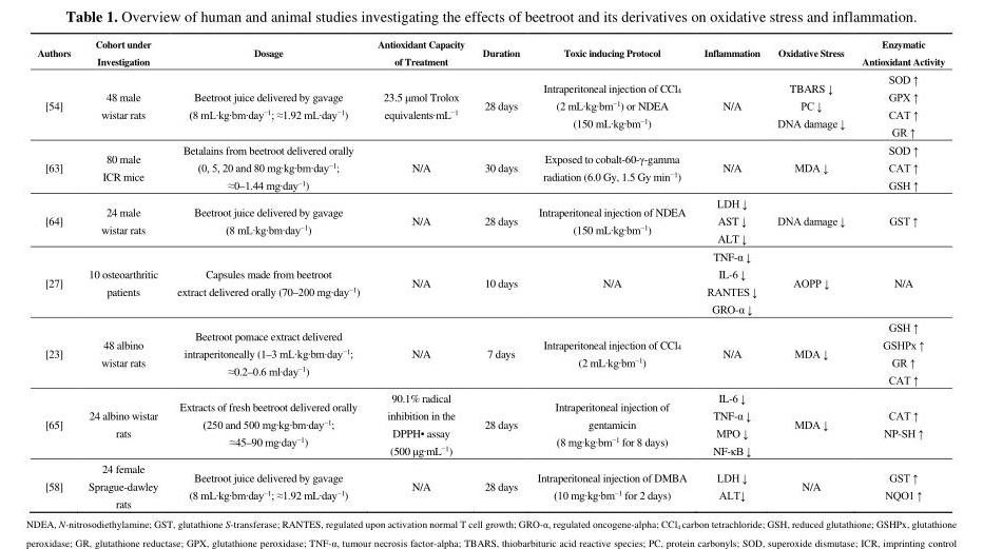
<table><thead><tr><td>Authors</td><td>Cohort under Investigation</td><td>Dosage</td><td>Antioxidant Capacity of Treatment</td><td>Duration</td><td>Toxic inducing Protocol</td><td>Inflammation</td><td>Oxidative Stress</td><td>Enzymatic Antioxidant Activity</td></tr></thead><tbody><tr><td>[54]</td><td>48 male wistar rats</td><td>Beetroot juice delivered by gavage (8 mL∙kg∙bm∙day<sup>−1</sup>; ≈1.92 mL∙day<sup>−1</sup>)</td><td>23.5 μmol Trolox equivalents∙mL<sup>−1</sup></td><td>28 days</td><td>Intraperitoneal injection of CCl<sub>4</sub> (2 mL∙kg∙bm<sup>−1</sup>) or NDEA (150 mL∙kg∙bm<sup>−1</sup>)</td><td>N/A</td><td>TBARS ↓ PC ↓ DNA damage ↓</td><td>SOD ↑ GPX ↑ CAT ↑ GR ↑</td></tr><tr><td>[63]</td><td>80 male ICR mice</td><td>Betalains from beetroot delivered orally (0, 5, 20 and 80 mg∙kg∙bm∙day<sup>−1</sup>; ≈0–1.44 mg∙day<sup>−1</sup>)</td><td>N/A</td><td>30 days</td><td>Exposed to cobalt-60-γ-gamma radiation (6.0 Gy, 1.5 Gy min<sup>−1</sup>)</td><td>N/A</td><td>MDA ↓</td><td>SOD ↑ CAT ↑ GSH ↑</td></tr><tr><td>[64]</td><td>24 male wistar rats</td><td>Beetroot juice delivered by gavage (8 mL∙kg∙bm∙day<sup>−1</sup>)</td><td>N/A</td><td>28 days</td><td>Intraperitoneal injection of NDEA (150 mL∙kg∙bm<sup>−1</sup>)</td><td>LDH ↓ AST ↓ ALT ↓</td><td>DNA damage ↓</td><td>GST ↑</td></tr><tr><td>[27]</td><td>10 osteoarthritic patients</td><td>Capsules made from beetroot extract delivered orally (70–200 mg∙day<sup>−1</sup>)</td><td>N/A</td><td>10 days</td><td>N/A</td><td>TNF-α ↓ IL-6 ↓ RANTES ↓ GRO-α ↓</td><td>AOPP ↓</td><td>N/A</td></tr><tr><td>[23]</td><td>48 albino wistar rats</td><td>Beetroot pomace extract delivered intraperitoneally (1–3 mL∙kg∙bm∙day<sup>−1</sup>; ≈0.2–0.6 ml∙day<sup>−1</sup>)</td><td>N/A</td><td>7 days</td><td>Intraperitoneal injection of CCl<sub>4</sub> (2 mL∙kg∙bm<sup>−1</sup>)</td><td>N/A</td><td>MDA ↓</td><td>GSH ↑ GSHPx ↑ GR ↑ CAT ↑</td></tr><tr><td>[65]</td><td>24 albino wistar rats</td><td>Extracts of fresh beetroot delivered orally (250 and 500 mg∙kg∙bm∙day<sup>−1</sup>; ≈45–90 mg∙day<sup>−1</sup>)</td><td>90.1% radical inhibition in the DPPH• assay (500 μg∙mL<sup>−1</sup>)</td><td>28 days</td><td>Intraperitoneal injection of gentamicin (8 mg∙kg∙bm<sup>−1</sup> for 8 days)</td><td>IL-6 ↓ TNF-α ↓ MPO ↓ NF-κB ↓</td><td>MDA ↓</td><td>CAT ↑ NP-SH ↑</td></tr><tr><td>[58]</td><td>24 female Sprague-dawley rats</td><td>Beetroot juice delivered by gavage (8 mL∙kg∙bm∙day<sup>−1</sup>; ≈1.92 mL∙day<sup>−1</sup>)</td><td>N/A</td><td>28 days</td><td>Intraperitoneal injection of DMBA (10 mg∙kg∙bm<sup>−1</sup> for 2 days)</td><td>LDH ↓ ALT↓</td><td>N/A</td><td>GST ↑ NQO1 ↑</td></tr></tbody></table>